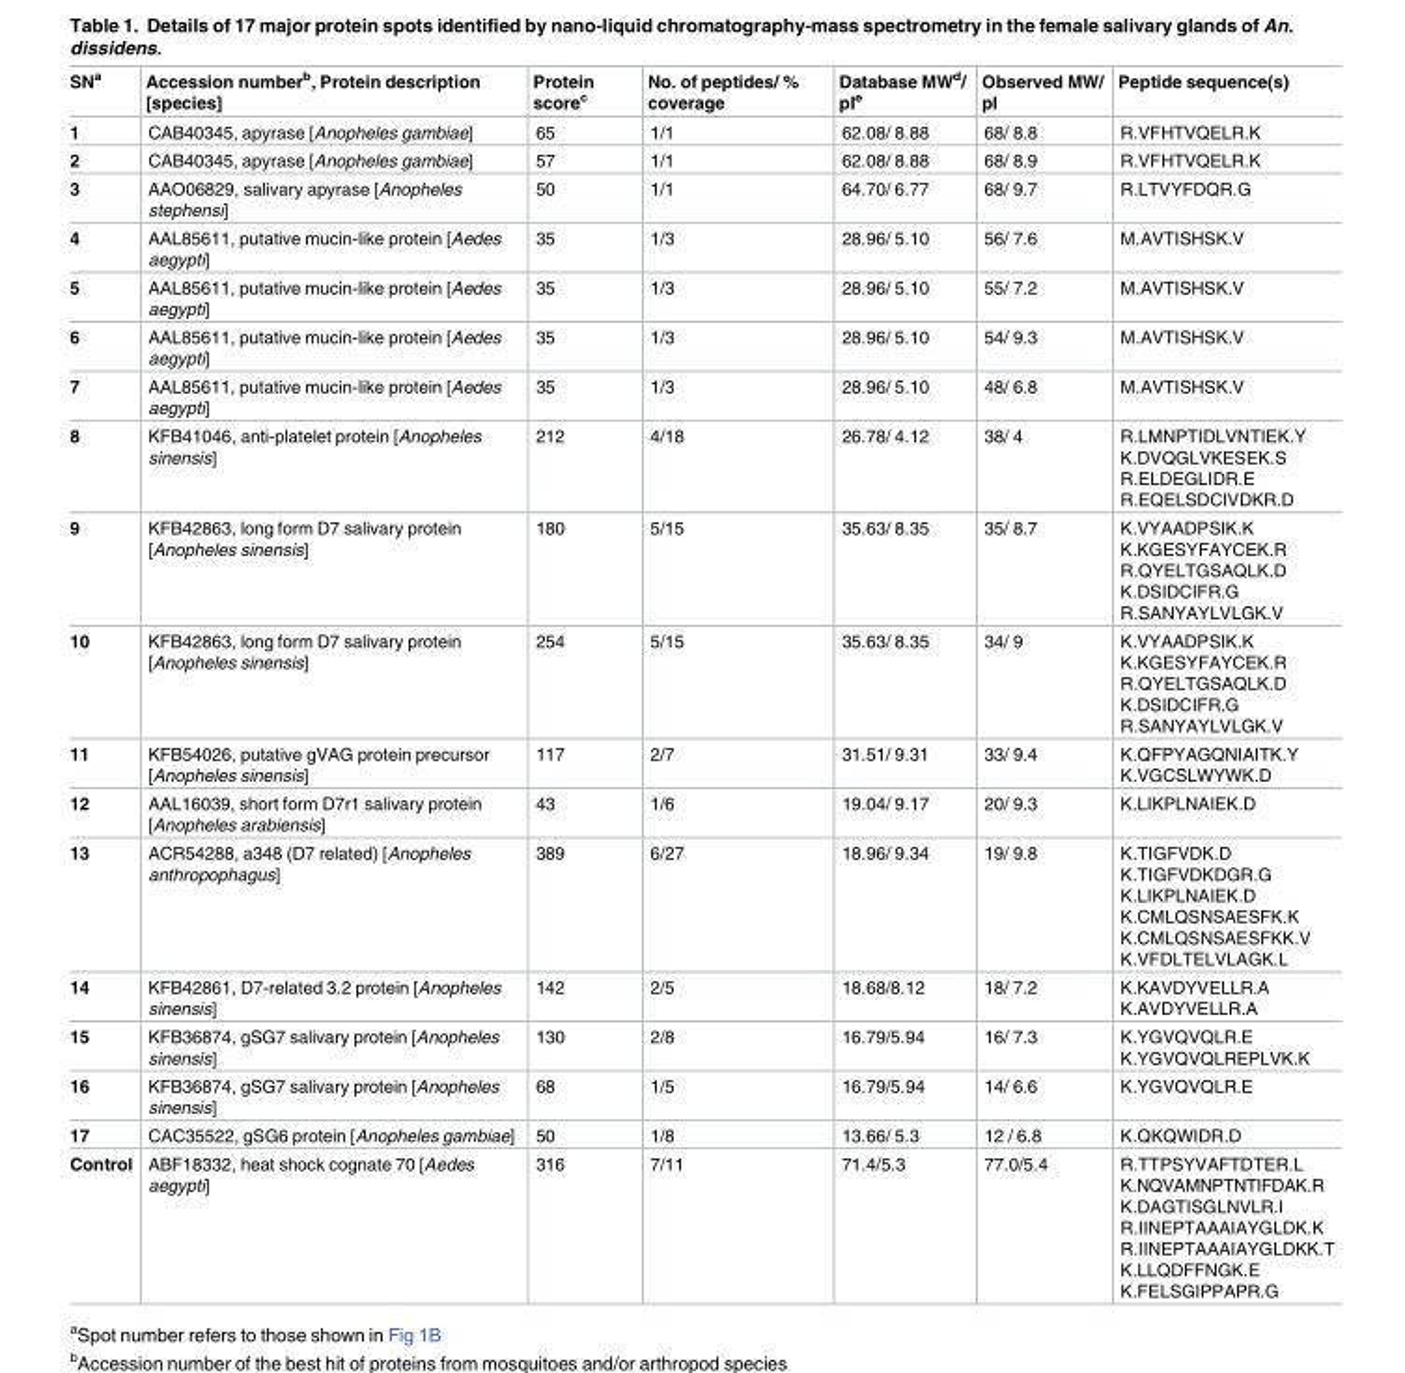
<table><thead><tr><td>SN<sup>a</sup></td><td>Accession number<sup>b</sup>, Protein description [species]</td><td>Protein score<sup>c</sup></td><td>No. of peptides/ % coverage</td><td>Database MW<sup>d</sup>/ pI<sup>e</sup></td><td>Observed MW/ pI</td><td>Peptide sequence(s)</td></tr></thead><tbody><tr><td>1</td><td>CAB40345, apyrase [Anopheles gambiae]</td><td>65</td><td>1/1</td><td>62.08/ 8.88</td><td>68/ 8.8</td><td>R.VFHTVQELR.K</td></tr><tr><td>2</td><td>CAB40345, apyrase [Anopheles gambiae]</td><td>57</td><td>1/1</td><td>62.08/ 8.88</td><td>68/ 8.9</td><td>R.VFHTVQELR.K</td></tr><tr><td>3</td><td>AAO06829, salivary apyrase [Anopheles stephensi]</td><td>50</td><td>1/1</td><td>64.70/ 6.77</td><td>68/ 9.7</td><td>R.LTVYFDQR.G</td></tr><tr><td>4</td><td>AAL85611, putative mucin-like protein [Aedes aegypti]</td><td>35</td><td>1/3</td><td>28.96/ 5.10</td><td>56/ 7.6</td><td>M.AVTISHSK.V</td></tr><tr><td>5</td><td>AAL85611, putative mucin-like protein [Aedes aegypti]</td><td>35</td><td>1/3</td><td>28.96/ 5.10</td><td>55/ 7.2</td><td>M.AVTISHSK.V</td></tr><tr><td>6</td><td>AAL85611, putative mucin-like protein [Aedes aegypti]</td><td>35</td><td>1/3</td><td>28.96/ 5.10</td><td>54/ 9.3</td><td>M.AVTISHSK.V</td></tr><tr><td>7</td><td>AAL85611, putative mucin-like protein [Aedes aegypti]</td><td>35</td><td>1/3</td><td>28.96/ 5.10</td><td>48/ 6.8</td><td>M.AVTISHSK.V</td></tr><tr><td>8</td><td>KFB41046, anti-platelet protein [Anopheles sinensis]</td><td>212</td><td>4/18</td><td>26.78/ 4.12</td><td>38/ 4</td><td>R.LMNPTIDLVNTIEK.Y K.DVQGLVKESEK.S R.ELDEGLIDR.E R.EQELSDCIVDKR.D</td></tr><tr><td>9</td><td>KFB42863, long form D7 salivary protein [Anopheles sinensis]</td><td>180</td><td>5/15</td><td>35.63/ 8.35</td><td>35/ 8.7</td><td>K.VYAADPSIK.K K.KGESYFAYCEK.R R.QYELTGSAQLK.D K.DSIDCIFR.G R.SANYAYLVLGK.V</td></tr><tr><td>10</td><td>KFB42863, long form D7 salivary protein [Anopheles sinensis]</td><td>254</td><td>5/15</td><td>35.63/ 8.35</td><td>34/ 9</td><td>K.VYAADPSIK.K K.KGESYFAYCEK.R R.QYELTGSAQLK.D K.DSIDCIFR.G R.SANYAYLVLGK.V</td></tr><tr><td>11</td><td>KFB54026, putative gVAG protein precursor [Anopheles sinensis]</td><td>117</td><td>2/7</td><td>31.51/ 9.31</td><td>33/ 9.4</td><td>K.QFPYAGQNIAITK.Y K.VGCSLWYWK.D</td></tr><tr><td>12</td><td>AAL16039, short form D7r1 salivary protein [Anopheles arabiensis]</td><td>43</td><td>1/6</td><td>19.04/ 9.17</td><td>20/ 9.3</td><td>K.LIKPLNAIEK.D</td></tr><tr><td>13</td><td>ACR54288, a348 (D7 related) [Anopheles anthropophagus]</td><td>389</td><td>6/27</td><td>18.96/ 9.34</td><td>19/ 9.8</td><td>K.TIGFVDK.D K.TIGFVDKDGR.G K.LIKPLNAIEK.D K.CMLQSNSAESFK.K K.CMLQSNSAESFKK.V K.VFDLTELVLAGK.L</td></tr><tr><td>14</td><td>KFB42861, D7-related 3.2 protein [Anopheles sinensis]</td><td>142</td><td>2/5</td><td>18.68/8.12</td><td>18/ 7.2</td><td>K.KAVDYVELLR.A K.AVDYVELLR.A</td></tr><tr><td>15</td><td>KFB36874, gSG7 salivary protein [Anopheles sinensis]</td><td>130</td><td>2/8</td><td>16.79/5.94</td><td>16/ 7.3</td><td>K.YGVQVQLR.E K.YGVQVQLREPLVK.K</td></tr><tr><td>16</td><td>KFB36874, gSG7 salivary protein [Anopheles sinensis]</td><td>68</td><td>1/5</td><td>16.79/5.94</td><td>14/ 6.6</td><td>K.YGVQVQLR.E</td></tr><tr><td>17</td><td>CAC35522, gSG6 protein [Anopheles gambiae]</td><td>50</td><td>1/8</td><td>13.66/ 5.3</td><td>12 / 6.8</td><td>K.QKQWIDR.D</td></tr><tr><td>Control</td><td>ABF18332, heat shock cognate 70 [Aedes aegypti]</td><td>316</td><td>7/11</td><td>71.4/5.3</td><td>77.0/5.4</td><td>R.TTPSYVAFTDTER.L K.NQVAMNPTNTIFDAK.R K.DAGTISGLNVLR.I R.IINEPTAAAIAYGLDK.K R.IINEPTAAAIAYGLDKK.T K.LLQDFFNGK.E K.FELSGIPPAPR.G</td></tr></tbody></table>